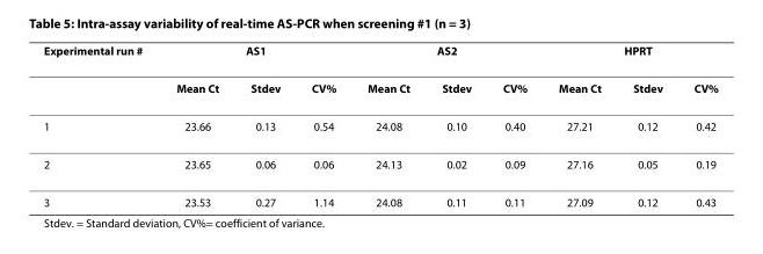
<table><thead><tr><td rowspan="2">Experimental run #</td><td colspan="3">AS1</td><td colspan="3">AS2</td><td colspan="3">HPRT</td></tr><tr><td>Mean Ct</td><td>Stdev</td><td>CV%</td><td>Mean Ct</td><td>Stdev</td><td>CV%</td><td>Mean Ct</td><td>Stdev</td><td>CV%</td></tr></thead><tbody><tr><td>1</td><td>23.66</td><td>0.13</td><td>0.54</td><td>24.08</td><td>0.10</td><td>0.40</td><td>27.21</td><td>0.12</td><td>0.42</td></tr><tr><td>2</td><td>23.65</td><td>0.06</td><td>0.06</td><td>24.13</td><td>0.02</td><td>0.09</td><td>27.16</td><td>0.05</td><td>0.19</td></tr><tr><td>3</td><td>23.53</td><td>0.27</td><td>1.14</td><td>24.08</td><td>0.11</td><td>0.11</td><td>27.09</td><td>0.12</td><td>0.43</td></tr></tbody></table>